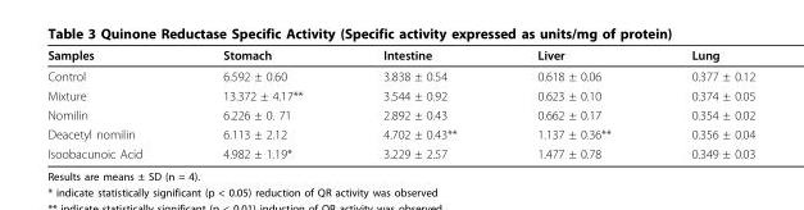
<table><thead><tr><td>Samples</td><td>Stomach</td><td>Intestine</td><td>Liver</td><td>Lung</td></tr></thead><tbody><tr><td>Control</td><td>6.592 ± 0.60</td><td>3.838 ± 0.54</td><td>0.618 ± 0.06</td><td>0.377 ± 0.12</td></tr><tr><td>Mixture</td><td>13.372 ± 4.17**</td><td>3.544 ± 0.92</td><td>0.623 ± 0.10</td><td>0.374 ± 0.05</td></tr><tr><td>Nomilin</td><td>6.226 ± 0. 71</td><td>2.892 ± 0.43</td><td>0.662 ± 0.17</td><td>0.354 ± 0.02</td></tr><tr><td>Deacetyl nomilin</td><td>6.113 ± 2.12</td><td>4.702 ± 0.43**</td><td>1.137 ± 0.36**</td><td>0.356 ± 0.04</td></tr><tr><td>Isoobacunoic Acid</td><td>4.982 ± 1.19*</td><td>3.229 ± 2.57</td><td>1.477 ± 0.78</td><td>0.349 ± 0.03</td></tr></tbody></table>